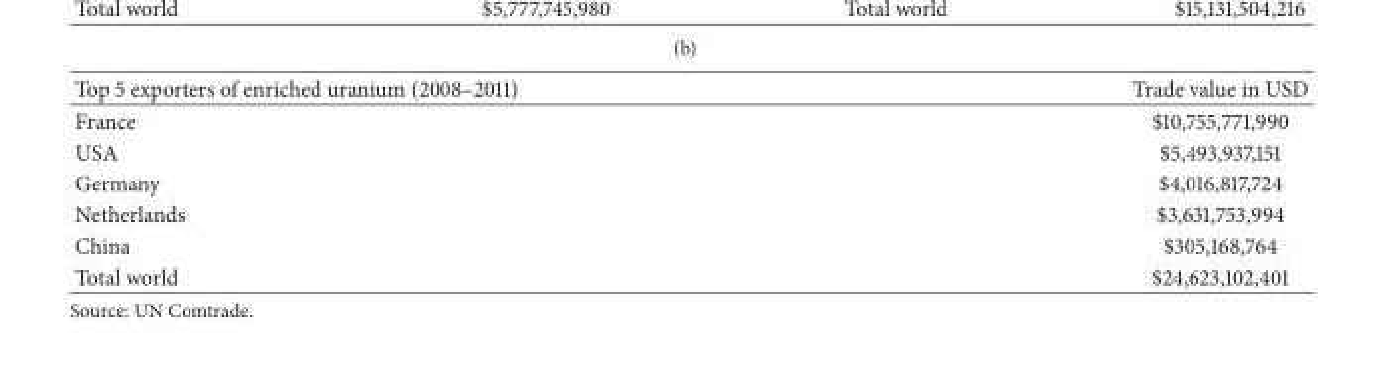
<table><thead><tr><td>Top 5 exporters of enriched uranium (2008–2011)</td><td>Trade value in USD</td></tr></thead><tbody><tr><td>France</td><td>$10,755,771,990</td></tr><tr><td>USA</td><td>$5,493,937,151</td></tr><tr><td>Germany</td><td>$4,016,817,724</td></tr><tr><td>Netherlands</td><td>$3,631,753,994</td></tr><tr><td>China</td><td>$305,168,764</td></tr><tr><td>Total world</td><td>$24,623,102,401</td></tr></tbody></table>